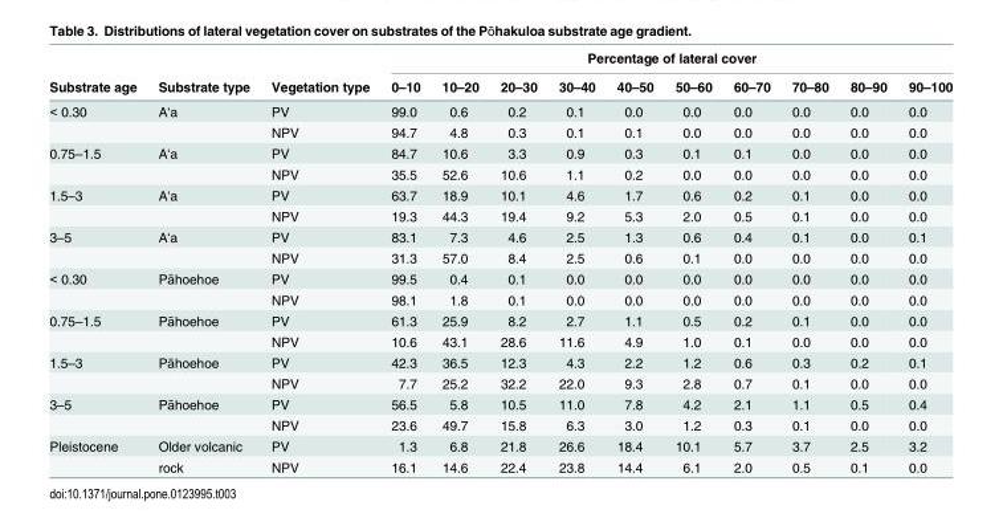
<table><thead><tr><td rowspan="2">Substrate age</td><td rowspan="2">Substrate type</td><td rowspan="2">Vegetation type</td><td colspan="10">Percentage of lateral cover</td></tr><tr><td>0–10</td><td>10–20</td><td>20–30</td><td>30–40</td><td>40–50</td><td>50–60</td><td>60–70</td><td>70–80</td><td>80–90</td><td>90–100</td></tr></thead><tbody><tr><td rowspan="2">&lt; 0.30</td><td>Aʻa</td><td>PV</td><td>99.0</td><td>0.6</td><td>0.2</td><td>0.1</td><td>0.0</td><td>0.0</td><td>0.0</td><td>0.0</td><td>0.0</td><td>0.0</td></tr><tr><td></td><td>NPV</td><td>94.7</td><td>4.8</td><td>0.3</td><td>0.1</td><td>0.1</td><td>0.0</td><td>0.0</td><td>0.0</td><td>0.0</td><td>0.0</td></tr><tr><td rowspan="2">0.75–1.5</td><td>Aʻa</td><td>PV</td><td>84.7</td><td>10.6</td><td>3.3</td><td>0.9</td><td>0.3</td><td>0.1</td><td>0.1</td><td>0.0</td><td>0.0</td><td>0.0</td></tr><tr><td></td><td>NPV</td><td>35.5</td><td>52.6</td><td>10.6</td><td>1.1</td><td>0.2</td><td>0.0</td><td>0.0</td><td>0.0</td><td>0.0</td><td>0.0</td></tr><tr><td rowspan="2">1.5–3</td><td>Aʻa</td><td>PV</td><td>63.7</td><td>18.9</td><td>10.1</td><td>4.6</td><td>1.7</td><td>0.6</td><td>0.2</td><td>0.1</td><td>0.0</td><td>0.0</td></tr><tr><td></td><td>NPV</td><td>19.3</td><td>44.3</td><td>19.4</td><td>9.2</td><td>5.3</td><td>2.0</td><td>0.5</td><td>0.1</td><td>0.0</td><td>0.0</td></tr><tr><td rowspan="2">3–5</td><td>Aʻa</td><td>PV</td><td>83.1</td><td>7.3</td><td>4.6</td><td>2.5</td><td>1.3</td><td>0.6</td><td>0.4</td><td>0.1</td><td>0.0</td><td>0.1</td></tr><tr><td></td><td>NPV</td><td>31.3</td><td>57.0</td><td>8.4</td><td>2.5</td><td>0.6</td><td>0.1</td><td>0.0</td><td>0.0</td><td>0.0</td><td>0.0</td></tr><tr><td rowspan="2">&lt; 0.30</td><td>Pāhoehoe</td><td>PV</td><td>99.5</td><td>0.4</td><td>0.1</td><td>0.0</td><td>0.0</td><td>0.0</td><td>0.0</td><td>0.0</td><td>0.0</td><td>0.0</td></tr><tr><td></td><td>NPV</td><td>98.1</td><td>1.8</td><td>0.1</td><td>0.0</td><td>0.0</td><td>0.0</td><td>0.0</td><td>0.0</td><td>0.0</td><td>0.0</td></tr><tr><td rowspan="2">0.75–1.5</td><td>Pāhoehoe</td><td>PV</td><td>61.3</td><td>25.9</td><td>8.2</td><td>2.7</td><td>1.1</td><td>0.5</td><td>0.2</td><td>0.1</td><td>0.0</td><td>0.0</td></tr><tr><td></td><td>NPV</td><td>10.6</td><td>43.1</td><td>28.6</td><td>11.6</td><td>4.9</td><td>1.0</td><td>0.1</td><td>0.0</td><td>0.0</td><td>0.0</td></tr><tr><td rowspan="2">1.5–3</td><td>Pāhoehoe</td><td>PV</td><td>42.3</td><td>36.5</td><td>12.3</td><td>4.3</td><td>2.2</td><td>1.2</td><td>0.6</td><td>0.3</td><td>0.2</td><td>0.1</td></tr><tr><td></td><td>NPV</td><td>7.7</td><td>25.2</td><td>32.2</td><td>22.0</td><td>9.3</td><td>2.8</td><td>0.7</td><td>0.1</td><td>0.0</td><td>0.0</td></tr><tr><td rowspan="2">3–5</td><td>Pāhoehoe</td><td>PV</td><td>56.5</td><td>5.8</td><td>10.5</td><td>11.0</td><td>7.8</td><td>4.2</td><td>2.1</td><td>1.1</td><td>0.5</td><td>0.4</td></tr><tr><td></td><td>NPV</td><td>23.6</td><td>49.7</td><td>15.8</td><td>6.3</td><td>3.0</td><td>1.2</td><td>0.3</td><td>0.1</td><td>0.0</td><td>0.0</td></tr><tr><td rowspan="2">Pleistocene</td><td>Older volcanic</td><td>PV</td><td>1.3</td><td>6.8</td><td>21.8</td><td>26.6</td><td>18.4</td><td>10.1</td><td>5.7</td><td>3.7</td><td>2.5</td><td>3.2</td></tr><tr><td>rock</td><td>NPV</td><td>16.1</td><td>14.6</td><td>22.4</td><td>23.8</td><td>14.4</td><td>6.1</td><td>2.0</td><td>0.5</td><td>0.1</td><td>0.0</td></tr></tbody></table>